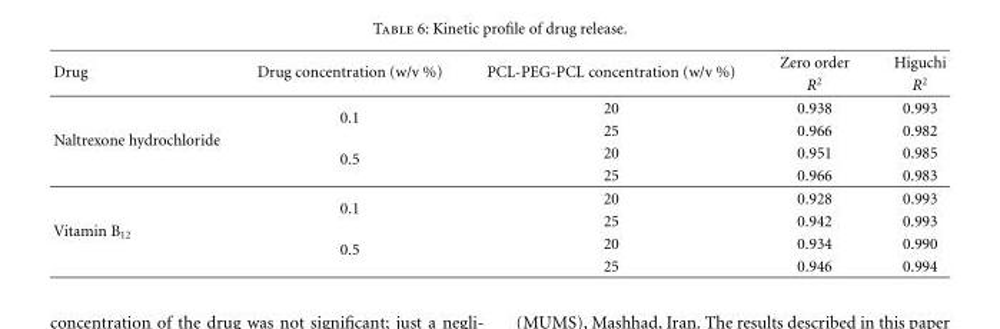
<table><thead><tr><td rowspan="2">Drug</td><td rowspan="2">Drug concentration (w/v %)</td><td rowspan="2">PCL-PEG-PCL concentration (w/v %)</td><td rowspan="2">Zero order R<sup>2</sup></td><td rowspan="2">Higuchi R<sup>2</sup></td></tr><tr></tr></thead><tbody><tr><td rowspan="4">Naltrexone hydrochloride</td><td rowspan="2">0.1</td><td>20</td><td>0.938</td><td>0.993</td></tr><tr><td>25</td><td>0.966</td><td>0.982</td></tr><tr><td rowspan="2">0.5</td><td>20</td><td>0.951</td><td>0.985</td></tr><tr><td>25</td><td>0.966</td><td>0.983</td></tr><tr><td rowspan="4">Vitamin B<sub>12</sub></td><td rowspan="2">0.1</td><td>20</td><td>0.928</td><td>0.993</td></tr><tr><td>25</td><td>0.942</td><td>0.993</td></tr><tr><td rowspan="2">0.5</td><td>20</td><td>0.934</td><td>0.990</td></tr><tr><td>25</td><td>0.946</td><td>0.994</td></tr></tbody></table>